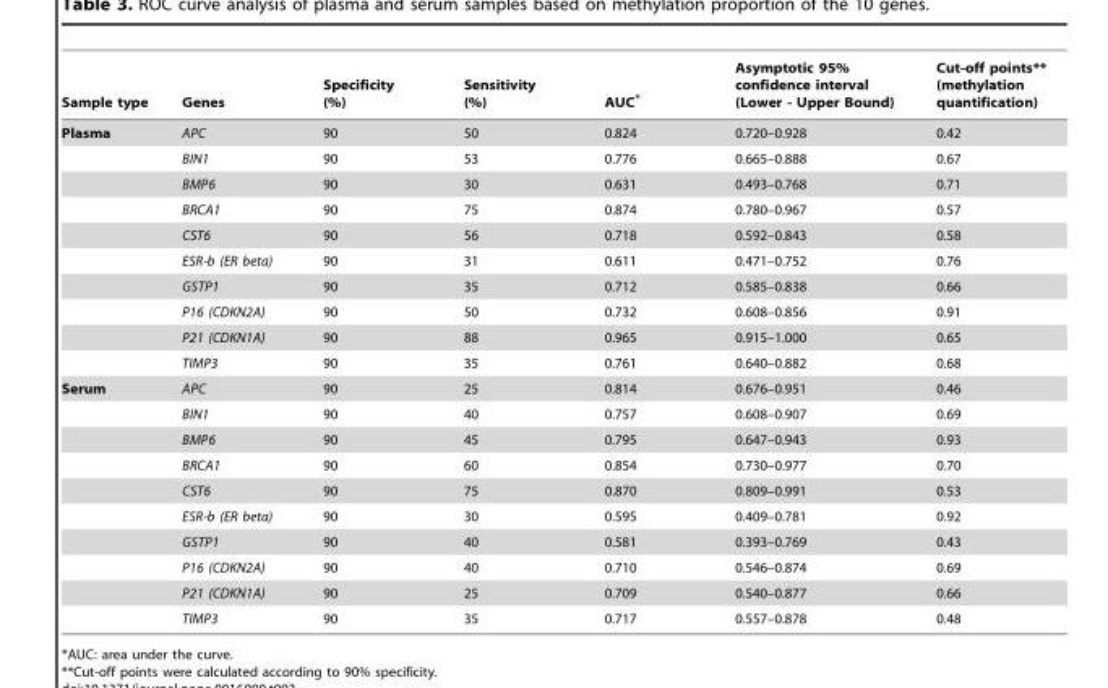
<table><thead><tr><td>Sample type</td><td>Genes</td><td>Specificity (%)</td><td>Sensitivity (%)</td><td>AUC*</td><td>Asymptotic 95% confidence interval (Lower - Upper Bound)</td><td>Cut-off points** (methylation quantification)</td></tr></thead><tbody><tr><td rowspan="10">Plasma</td><td>APC</td><td>90</td><td>50</td><td>0.824</td><td>0.720–0.928</td><td>0.42</td></tr><tr><td>BIN1</td><td>90</td><td>53</td><td>0.776</td><td>0.665–0.888</td><td>0.67</td></tr><tr><td>BMP6</td><td>90</td><td>30</td><td>0.631</td><td>0.493–0.768</td><td>0.71</td></tr><tr><td>BRCA1</td><td>90</td><td>75</td><td>0.874</td><td>0.780–0.967</td><td>0.57</td></tr><tr><td>CST6</td><td>90</td><td>56</td><td>0.718</td><td>0.592–0.843</td><td>0.58</td></tr><tr><td>ESR-b (ER beta)</td><td>90</td><td>31</td><td>0.611</td><td>0.471–0.752</td><td>0.76</td></tr><tr><td>GSTP1</td><td>90</td><td>35</td><td>0.712</td><td>0.585–0.838</td><td>0.66</td></tr><tr><td>P16 (CDKN2A)</td><td>90</td><td>50</td><td>0.732</td><td>0.608–0.856</td><td>0.91</td></tr><tr><td>P21 (CDKN1A)</td><td>90</td><td>88</td><td>0.965</td><td>0.915–1.000</td><td>0.65</td></tr><tr><td>TIMP3</td><td>90</td><td>35</td><td>0.761</td><td>0.640–0.882</td><td>0.68</td></tr><tr><td rowspan="10">Serum</td><td>APC</td><td>90</td><td>25</td><td>0.814</td><td>0.676–0.951</td><td>0.46</td></tr><tr><td>BIN1</td><td>90</td><td>40</td><td>0.757</td><td>0.608–0.907</td><td>0.69</td></tr><tr><td>BMP6</td><td>90</td><td>45</td><td>0.795</td><td>0.647–0.943</td><td>0.93</td></tr><tr><td>BRCA1</td><td>90</td><td>60</td><td>0.854</td><td>0.730–0.977</td><td>0.70</td></tr><tr><td>CST6</td><td>90</td><td>75</td><td>0.870</td><td>0.809–0.991</td><td>0.53</td></tr><tr><td>ESR-b (ER beta)</td><td>90</td><td>30</td><td>0.595</td><td>0.409–0.781</td><td>0.92</td></tr><tr><td>GSTP1</td><td>90</td><td>40</td><td>0.581</td><td>0.393–0.769</td><td>0.43</td></tr><tr><td>P16 (CDKN2A)</td><td>90</td><td>40</td><td>0.710</td><td>0.546–0.874</td><td>0.69</td></tr><tr><td>P21 (CDKN1A)</td><td>90</td><td>25</td><td>0.709</td><td>0.540–0.877</td><td>0.66</td></tr><tr><td>TIMP3</td><td>90</td><td>35</td><td>0.717</td><td>0.557–0.878</td><td>0.48</td></tr></tbody></table>